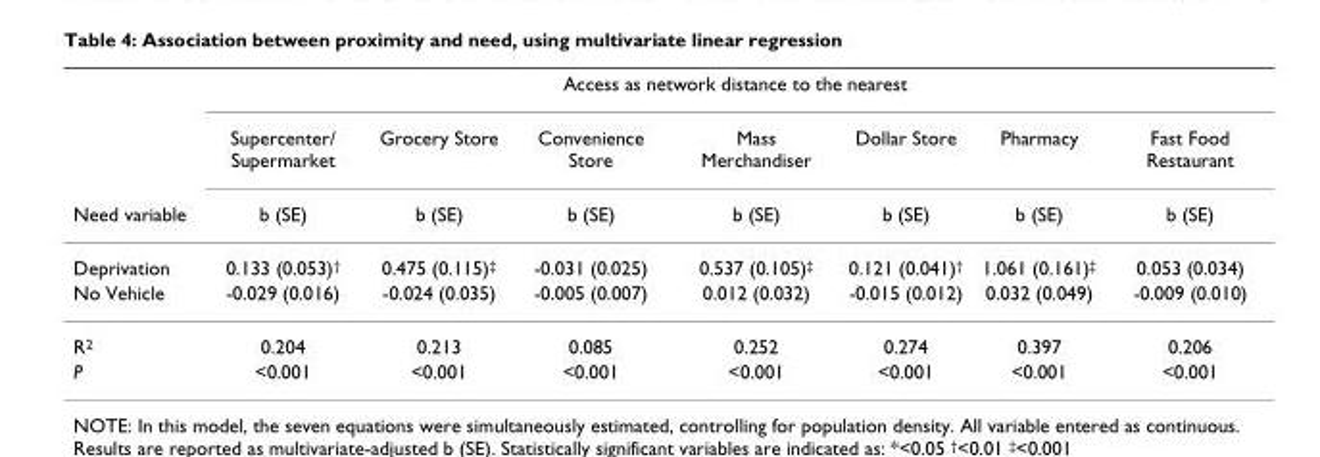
<table><thead><tr><td rowspan="3">Need variable</td><td colspan="7">Access as network distance to the nearest</td></tr><tr><td rowspan="2">Supercenter/ Supermarket b (SE)</td><td rowspan="2">Grocery Store b (SE)</td><td rowspan="2">Convenience Store b (SE)</td><td rowspan="2">Mass Merchandiser b (SE)</td><td rowspan="2">Dollar Store b (SE)</td><td rowspan="2">Pharmacy b (SE)</td><td rowspan="2">Fast Food Restaurant b (SE)</td></tr><tr></tr></thead><tbody><tr><td>Deprivation</td><td>0.133 (0.053)<sup>†</sup></td><td>0.475 (0.115)<sup>‡</sup></td><td>-0.031 (0.025)</td><td>0.537 (0.105)<sup>‡</sup></td><td>0.121 (0.041)<sup>†</sup></td><td>1.061 (0.161)<sup>‡</sup></td><td>0.053 (0.034)</td></tr><tr><td>No Vehicle</td><td>-0.029 (0.016)</td><td>-0.024 (0.035)</td><td>-0.005 (0.007)</td><td>0.012 (0.032)</td><td>-0.015 (0.012)</td><td>0.032 (0.049)</td><td>-0.009 (0.010)</td></tr><tr><td>R<sup>2</sup></td><td>0.204</td><td>0.213</td><td>0.085</td><td>0.252</td><td>0.274</td><td>0.397</td><td>0.206</td></tr><tr><td>P</td><td>&lt;0.001</td><td>&lt;0.001</td><td>&lt;0.001</td><td>&lt;0.001</td><td>&lt;0.001</td><td>&lt;0.001</td><td>&lt;0.001</td></tr></tbody></table>